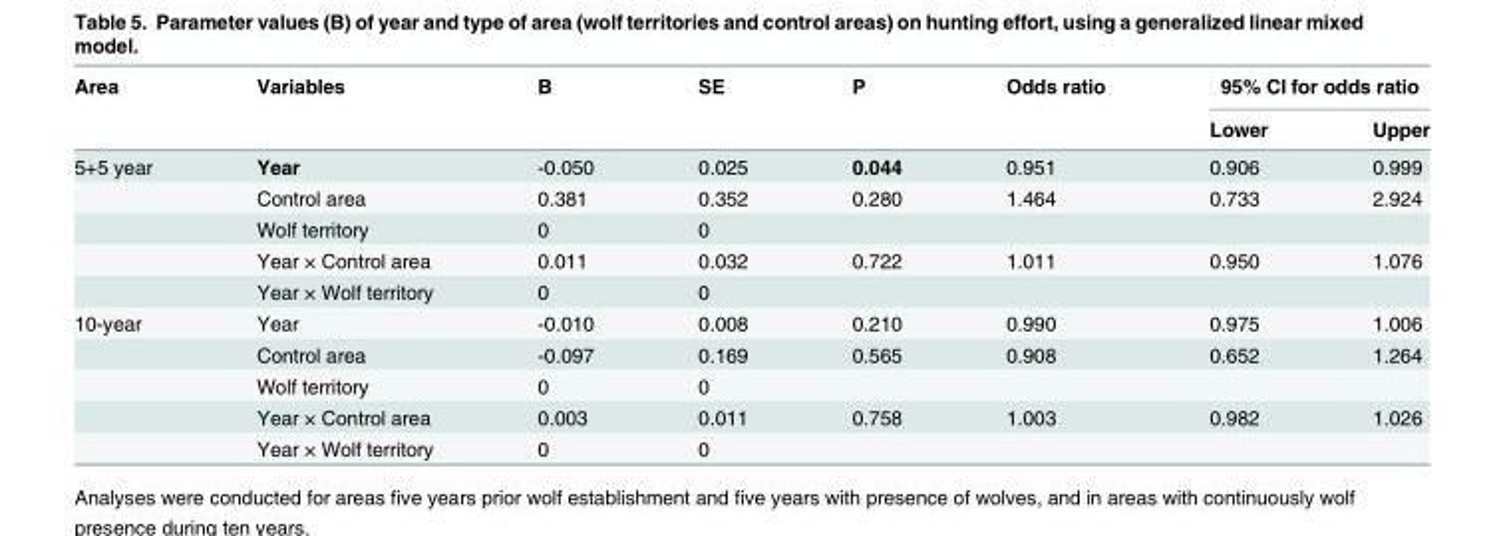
<table><thead><tr><td rowspan="2">Area</td><td rowspan="2">Variables</td><td rowspan="2">B</td><td rowspan="2">SE</td><td rowspan="2">P</td><td rowspan="2">Odds ratio</td><td colspan="2">95% CI for odds ratio</td></tr><tr><td>Lower</td><td>Upper</td></tr></thead><tbody><tr><td rowspan="5">5+5 year</td><td>Year</td><td>-0.050</td><td>0.025</td><td>0.044</td><td>0.951</td><td>0.906</td><td>0.999</td></tr><tr><td>Control area</td><td>0.381</td><td>0.352</td><td>0.280</td><td>1.464</td><td>0.733</td><td>2.924</td></tr><tr><td>Wolf territory</td><td>0</td><td>0</td><td></td><td></td><td></td><td></td></tr><tr><td>Year × Control area</td><td>0.011</td><td>0.032</td><td>0.722</td><td>1.011</td><td>0.950</td><td>1.076</td></tr><tr><td>Year × Wolf territory</td><td>0</td><td>0</td><td></td><td></td><td></td><td></td></tr><tr><td rowspan="5">10-year</td><td>Year</td><td>-0.010</td><td>0.008</td><td>0.210</td><td>0.990</td><td>0.975</td><td>1.006</td></tr><tr><td>Control area</td><td>-0.097</td><td>0.169</td><td>0.565</td><td>0.908</td><td>0.652</td><td>1.264</td></tr><tr><td>Wolf territory</td><td>0</td><td>0</td><td></td><td></td><td></td><td></td></tr><tr><td>Year × Control area</td><td>0.003</td><td>0.011</td><td>0.758</td><td>1.003</td><td>0.982</td><td>1.026</td></tr><tr><td>Year × Wolf territory</td><td>0</td><td>0</td><td></td><td></td><td></td><td></td></tr></tbody></table>